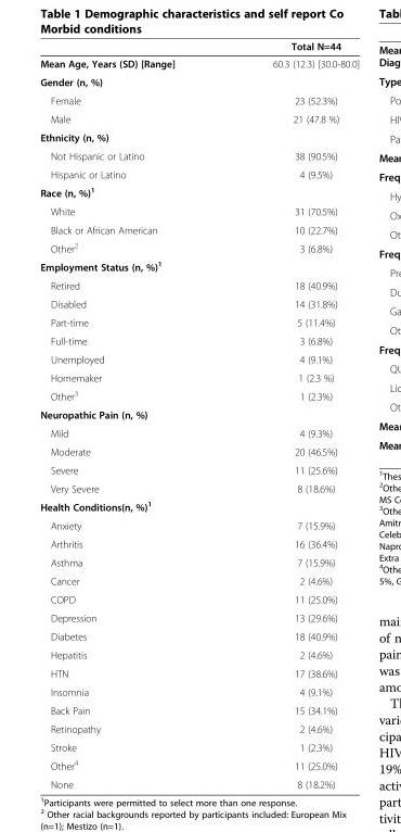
<table><thead><tr><td></td><td>Total N=44</td></tr></thead><tbody><tr><td>Mean Age, Years (SD) [Range]</td><td>60.3 (12.3) [30.0-80.0]</td></tr><tr><td colspan="2">Gender (n, %)</td></tr><tr><td>Female</td><td>23 (52.3%)</td></tr><tr><td>Male</td><td>21 (47.8 %)</td></tr><tr><td colspan="2">Ethnicity (n, %)</td></tr><tr><td>Not Hispanic or Latino</td><td>38 (90.5%)</td></tr><tr><td>Hispanic or Latino</td><td>4 (9.5%)</td></tr><tr><td colspan="2">Race (n, %)<sup>1</sup></td></tr><tr><td>White</td><td>31 (70.5%)</td></tr><tr><td>Black or African American</td><td>10 (22.7%)</td></tr><tr><td>Other<sup>2</sup></td><td>3 (6.8%)</td></tr><tr><td colspan="2">Employment Status (n, %)<sup>1</sup></td></tr><tr><td>Retired</td><td>18 (40.9%)</td></tr><tr><td>Disabled</td><td>14 (31.8%)</td></tr><tr><td>Part-time</td><td>5 (11.4%)</td></tr><tr><td>Full-time</td><td>3 (6.8%)</td></tr><tr><td>Unemployed</td><td>4 (9.1%)</td></tr><tr><td>Homemaker</td><td>1 (2.3 %)</td></tr><tr><td>Other<sup>3</sup></td><td>1 (2.3%)</td></tr><tr><td colspan="2">Neuropathic Pain (n, %)</td></tr><tr><td>Mild</td><td>4 (9.3%)</td></tr><tr><td>Moderate</td><td>20 (46.5%)</td></tr><tr><td>Severe</td><td>11 (25.6%)</td></tr><tr><td>Very Severe</td><td>8 (18.6%)</td></tr><tr><td colspan="2">Health Conditions(n, %)<sup>1</sup></td></tr><tr><td>Anxiety</td><td>7 (15.9%)</td></tr><tr><td>Arthritis</td><td>16 (36.4%)</td></tr><tr><td>Asthma</td><td>7 (15.9%)</td></tr><tr><td>Cancer</td><td>2 (4.6%)</td></tr><tr><td>COPD</td><td>11 (25.0%)</td></tr><tr><td>Depression</td><td>13 (29.6%)</td></tr><tr><td>Diabetes</td><td>18 (40.9%)</td></tr><tr><td>Hepatitis</td><td>2 (4.6%)</td></tr><tr><td>HTN</td><td>17 (38.6%)</td></tr><tr><td>Insomnia</td><td>4 (9.1%)</td></tr><tr><td>Back Pain</td><td>15 (34.1%)</td></tr><tr><td>Retinopathy</td><td>2 (4.6%)</td></tr><tr><td>Stroke</td><td>1 (2.3%)</td></tr><tr><td>Other<sup>4</sup></td><td>11 (25.0%)</td></tr><tr><td>None</td><td>8 (18.2%)</td></tr></tbody></table>